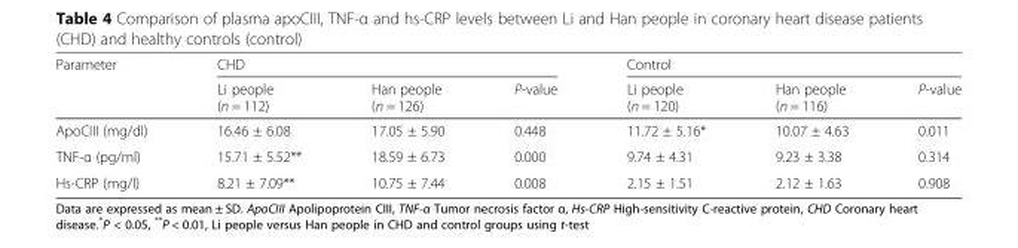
<table><thead><tr><td rowspan="2">Parameter</td><td colspan="3">CHD</td><td colspan="3">Control</td></tr><tr><td>Li people (n = 112)</td><td>Han people (n = 126)</td><td>P-value</td><td>Li people (n = 120)</td><td>Han people (n = 116)</td><td>P-value</td></tr></thead><tbody><tr><td>ApoCIII (mg/dl)</td><td>16.46 ± 6.08</td><td>17.05 ± 5.90</td><td>0.448</td><td>11.72 ± 5.16*</td><td>10.07 ± 4.63</td><td>0.011</td></tr><tr><td>TNF-α (pg/ml)</td><td>15.71 ± 5.52**</td><td>18.59 ± 6.73</td><td>0.000</td><td>9.74 ± 4.31</td><td>9.23 ± 3.38</td><td>0.314</td></tr><tr><td>Hs-CRP (mg/l)</td><td>8.21 ± 7.09**</td><td>10.75 ± 7.44</td><td>0.008</td><td>2.15 ± 1.51</td><td>2.12 ± 1.63</td><td>0.908</td></tr></tbody></table>